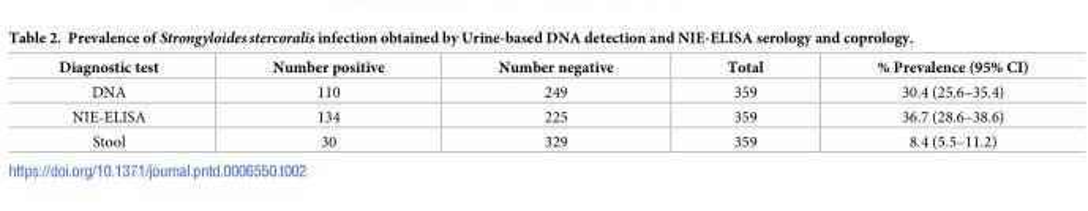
<table><thead><tr><td>Diagnostic test</td><td>Number positive</td><td>Number negative</td><td>Total</td><td>% Prevalence (95% CI)</td></tr></thead><tbody><tr><td>DNA</td><td>110</td><td>249</td><td>359</td><td>30.4 (25.6–35.4)</td></tr><tr><td>NIE-ELISA</td><td>134</td><td>225</td><td>359</td><td>36.7 (28.6–38.6)</td></tr><tr><td>Stool</td><td>30</td><td>329</td><td>359</td><td>8.4 (5.5–11.2)</td></tr></tbody></table>